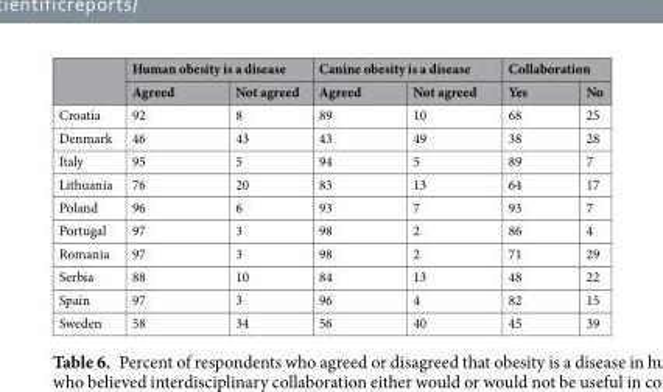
<table><thead><tr><td rowspan="2"></td><td colspan="2">Human obesity is a disease</td><td colspan="2">Canine obesity is a disease</td><td colspan="2">Collaboration</td></tr><tr><td>Agreed</td><td>Not agreed</td><td>Agreed</td><td>Not agreed</td><td>Yes</td><td>No</td></tr></thead><tbody><tr><td>Croatia</td><td>92</td><td>8</td><td>89</td><td>10</td><td>68</td><td>25</td></tr><tr><td>Denmark</td><td>46</td><td>43</td><td>43</td><td>49</td><td>38</td><td>28</td></tr><tr><td>Italy</td><td>95</td><td>5</td><td>94</td><td>5</td><td>89</td><td>7</td></tr><tr><td>Lithuania</td><td>76</td><td>20</td><td>83</td><td>13</td><td>64</td><td>17</td></tr><tr><td>Poland</td><td>96</td><td>6</td><td>93</td><td>7</td><td>93</td><td>7</td></tr><tr><td>Portugal</td><td>97</td><td>3</td><td>98</td><td>2</td><td>86</td><td>4</td></tr><tr><td>Romania</td><td>97</td><td>3</td><td>98</td><td>2</td><td>71</td><td>29</td></tr><tr><td>Serbia</td><td>88</td><td>10</td><td>84</td><td>13</td><td>48</td><td>22</td></tr><tr><td>Spain</td><td>97</td><td>3</td><td>96</td><td>4</td><td>82</td><td>15</td></tr><tr><td>Sweden</td><td>58</td><td>34</td><td>56</td><td>40</td><td>45</td><td>39</td></tr></tbody></table>